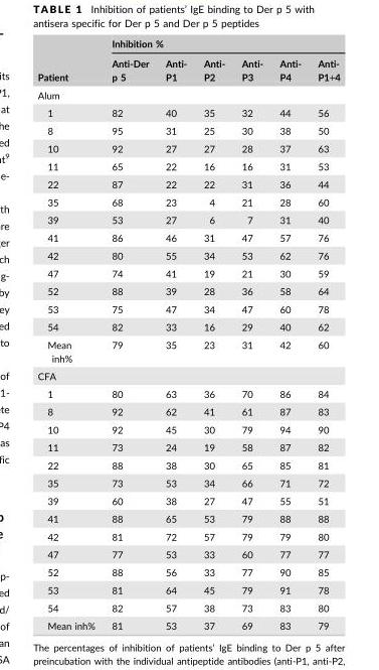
<table><thead><tr><td rowspan="2">Patient</td><td colspan="6">Inhibition %</td></tr><tr><td>Anti-Der p 5</td><td>Anti- P1</td><td>Anti- P2</td><td>Anti- P3</td><td>Anti- P4</td><td>Anti- P1+4</td></tr></thead><tbody><tr><td colspan="7">Alum</td></tr><tr><td>1</td><td>82</td><td>40</td><td>35</td><td>32</td><td>44</td><td>56</td></tr><tr><td>8</td><td>95</td><td>31</td><td>25</td><td>30</td><td>38</td><td>50</td></tr><tr><td>10</td><td>92</td><td>27</td><td>27</td><td>28</td><td>37</td><td>63</td></tr><tr><td>11</td><td>65</td><td>22</td><td>16</td><td>16</td><td>31</td><td>53</td></tr><tr><td>22</td><td>87</td><td>22</td><td>22</td><td>31</td><td>36</td><td>44</td></tr><tr><td>35</td><td>68</td><td>23</td><td>4</td><td>21</td><td>28</td><td>60</td></tr><tr><td>39</td><td>53</td><td>27</td><td>6</td><td>7</td><td>31</td><td>40</td></tr><tr><td>41</td><td>86</td><td>46</td><td>31</td><td>47</td><td>57</td><td>76</td></tr><tr><td>42</td><td>80</td><td>55</td><td>34</td><td>53</td><td>62</td><td>76</td></tr><tr><td>47</td><td>74</td><td>41</td><td>19</td><td>21</td><td>30</td><td>59</td></tr><tr><td>52</td><td>88</td><td>39</td><td>28</td><td>36</td><td>58</td><td>64</td></tr><tr><td>53</td><td>75</td><td>47</td><td>34</td><td>47</td><td>60</td><td>78</td></tr><tr><td>54</td><td>82</td><td>33</td><td>16</td><td>29</td><td>40</td><td>62</td></tr><tr><td>Mean inh%</td><td>79</td><td>35</td><td>23</td><td>31</td><td>42</td><td>60</td></tr><tr><td colspan="7">CFA</td></tr><tr><td>1</td><td>80</td><td>63</td><td>36</td><td>70</td><td>86</td><td>84</td></tr><tr><td>8</td><td>92</td><td>62</td><td>41</td><td>61</td><td>87</td><td>83</td></tr><tr><td>10</td><td>92</td><td>45</td><td>30</td><td>79</td><td>94</td><td>90</td></tr><tr><td>11</td><td>73</td><td>24</td><td>19</td><td>58</td><td>87</td><td>82</td></tr><tr><td>22</td><td>88</td><td>38</td><td>30</td><td>65</td><td>85</td><td>81</td></tr><tr><td>35</td><td>73</td><td>53</td><td>34</td><td>66</td><td>71</td><td>72</td></tr><tr><td>39</td><td>60</td><td>38</td><td>27</td><td>47</td><td>55</td><td>51</td></tr><tr><td>41</td><td>88</td><td>65</td><td>53</td><td>79</td><td>88</td><td>88</td></tr><tr><td>42</td><td>81</td><td>72</td><td>57</td><td>79</td><td>79</td><td>80</td></tr><tr><td>47</td><td>77</td><td>53</td><td>33</td><td>60</td><td>77</td><td>77</td></tr><tr><td>52</td><td>88</td><td>56</td><td>33</td><td>77</td><td>90</td><td>85</td></tr><tr><td>53</td><td>81</td><td>64</td><td>45</td><td>79</td><td>91</td><td>78</td></tr><tr><td>54</td><td>82</td><td>57</td><td>38</td><td>73</td><td>83</td><td>80</td></tr><tr><td>Mean inh%</td><td>81</td><td>53</td><td>37</td><td>69</td><td>83</td><td>79</td></tr></tbody></table>